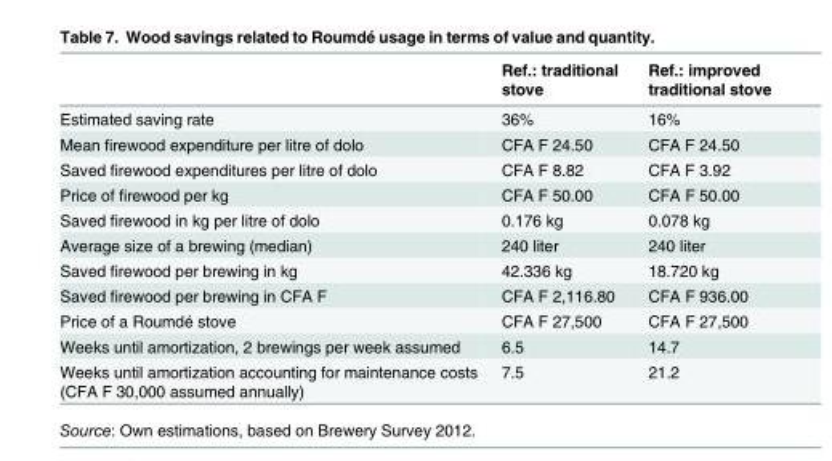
<table><thead><tr><td></td><td>Ref.: traditional stove</td><td>Ref.: improved traditional stove</td></tr></thead><tbody><tr><td>Estimated saving rate</td><td>36%</td><td>16%</td></tr><tr><td>Mean firewood expenditure per litre of dolo</td><td>CFA F 24.50</td><td>CFA F 24.50</td></tr><tr><td>Saved firewood expenditures per litre of dolo</td><td>CFA F 8.82</td><td>CFA F 3.92</td></tr><tr><td>Price of firewood per kg</td><td>CFA F 50.00</td><td>CFA F 50.00</td></tr><tr><td>Saved firewood in kg per litre of dolo</td><td>0.176 kg</td><td>0.078 kg</td></tr><tr><td>Average size of a brewing (median)</td><td>240 liter</td><td>240 liter</td></tr><tr><td>Saved firewood per brewing in kg</td><td>42.336 kg</td><td>18.720 kg</td></tr><tr><td>Saved firewood per brewing in CFA F</td><td>CFA F 2,116.80</td><td>CFA F 936.00</td></tr><tr><td>Price of a Roumdé stove</td><td>CFA F 27,500</td><td>CFA F 27,500</td></tr><tr><td>Weeks until amortization, 2 brewings per week assumed</td><td>6.5</td><td>14.7</td></tr><tr><td>Weeks until amortization accounting for maintenance costs (CFA F 30,000 assumed annually)</td><td>7.5</td><td>21.2</td></tr></tbody></table>